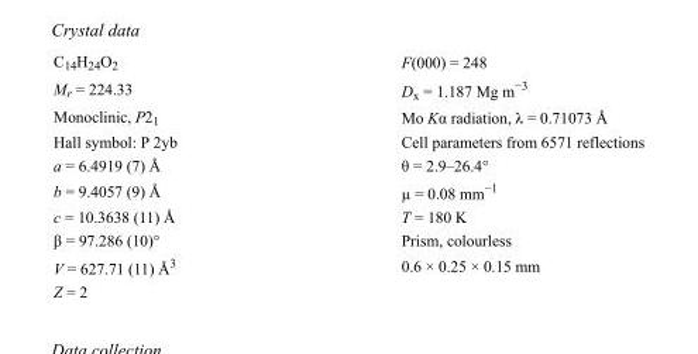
<table><tbody><tr><td>C<sub>14</sub>H<sub>24</sub>O<sub>2</sub></td><td>F(000) = 248</td></tr><tr><td>M<sub>r</sub> = 224.33</td><td>D<sub>x</sub> = 1.187 Mg m<sup>−3</sup></td></tr><tr><td>Monoclinic, P2<sub>1</sub></td><td>Mo Kα radiation, λ = 0.71073 Å</td></tr><tr><td>Hall symbol: P 2yb</td><td>Cell parameters from 6571 reflections</td></tr><tr><td>a = 6.4919 (7) Å</td><td>θ = 2.9–26.4°</td></tr><tr><td>b = 9.4057 (9) Å</td><td>µ = 0.08 mm<sup>−1</sup></td></tr><tr><td>c = 10.3638 (11) Å</td><td>T = 180 K</td></tr><tr><td>β = 97.286 (10)°</td><td>Prism, colourless</td></tr><tr><td>V = 627.71 (11) Å<sup>3</sup></td><td>0.6 × 0.25 × 0.15 mm</td></tr><tr><td>Z = 2</td><td></td></tr></tbody></table>